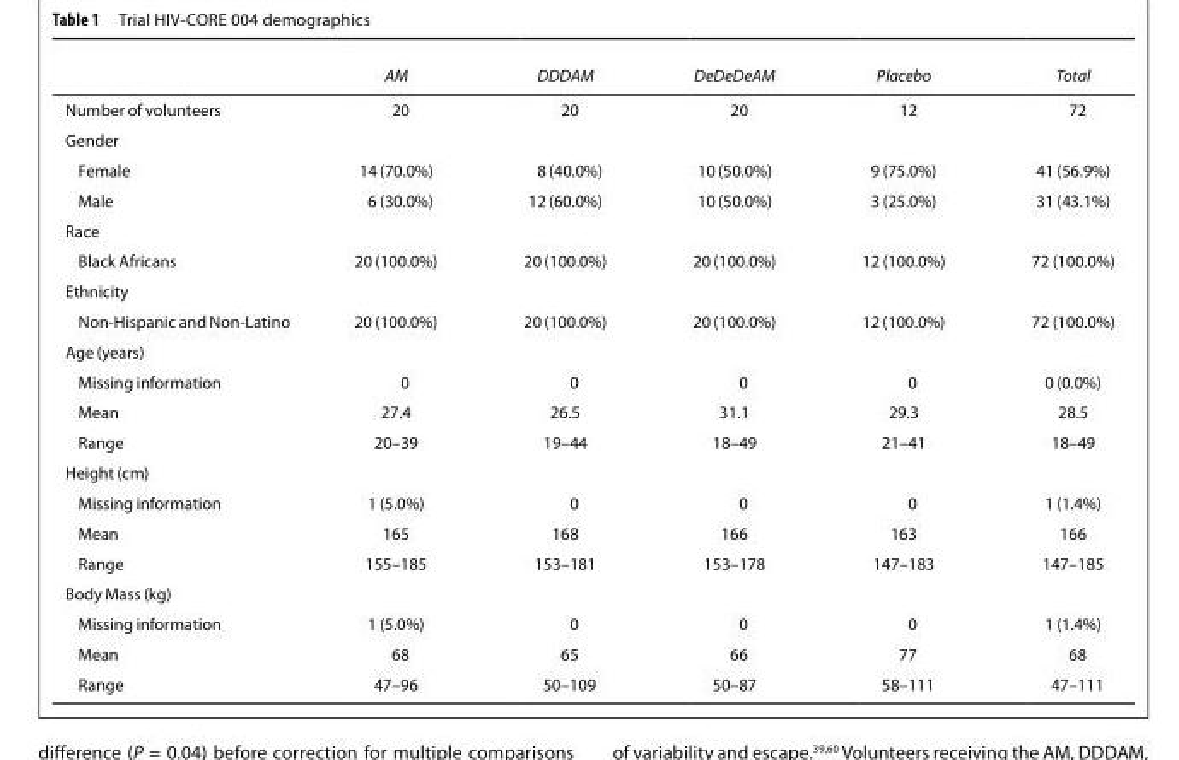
<table><thead><tr><td></td><td>AM</td><td>DDDAM</td><td>DeDeDeAM</td><td>Placebo</td><td>Total</td></tr></thead><tbody><tr><td>Number of volunteers</td><td>20</td><td>20</td><td>20</td><td>12</td><td>72</td></tr><tr><td colspan="6">Gender</td></tr><tr><td>Female</td><td>14 (70.0%)</td><td>8 (40.0%)</td><td>10 (50.0%)</td><td>9 (75.0%)</td><td>41 (56.9%)</td></tr><tr><td>Male</td><td>6 (30.0%)</td><td>12 (60.0%)</td><td>10 (50.0%)</td><td>3 (25.0%)</td><td>31 (43.1%)</td></tr><tr><td colspan="6">Race</td></tr><tr><td>Black Africans</td><td>20 (100.0%)</td><td>20 (100.0%)</td><td>20 (100.0%)</td><td>12 (100.0%)</td><td>72 (100.0%)</td></tr><tr><td colspan="6">Ethnicity</td></tr><tr><td>Non-Hispanic and Non-Latino</td><td>20 (100.0%)</td><td>20 (100.0%)</td><td>20 (100.0%)</td><td>12 (100.0%)</td><td>72 (100.0%)</td></tr><tr><td colspan="6">Age (years)</td></tr><tr><td>Missing information</td><td>0</td><td>0</td><td>0</td><td>0</td><td>0 (0.0%)</td></tr><tr><td>Mean</td><td>27.4</td><td>26.5</td><td>31.1</td><td>29.3</td><td>28.5</td></tr><tr><td>Range</td><td>20–39</td><td>19–44</td><td>18–49</td><td>21–41</td><td>18–49</td></tr><tr><td colspan="6">Height (cm)</td></tr><tr><td>Missing information</td><td>1 (5.0%)</td><td>0</td><td>0</td><td>0</td><td>1 (1.4%)</td></tr><tr><td>Mean</td><td>165</td><td>168</td><td>166</td><td>163</td><td>166</td></tr><tr><td>Range</td><td>155–185</td><td>153–181</td><td>153–178</td><td>147–183</td><td>147–185</td></tr><tr><td colspan="6">Body Mass (kg)</td></tr><tr><td>Missing information</td><td>1 (5.0%)</td><td>0</td><td>0</td><td>0</td><td>1 (1.4%)</td></tr><tr><td>Mean</td><td>68</td><td>65</td><td>66</td><td>77</td><td>68</td></tr><tr><td>Range</td><td>47–96</td><td>50–109</td><td>50–87</td><td>58–111</td><td>47–111</td></tr></tbody></table>